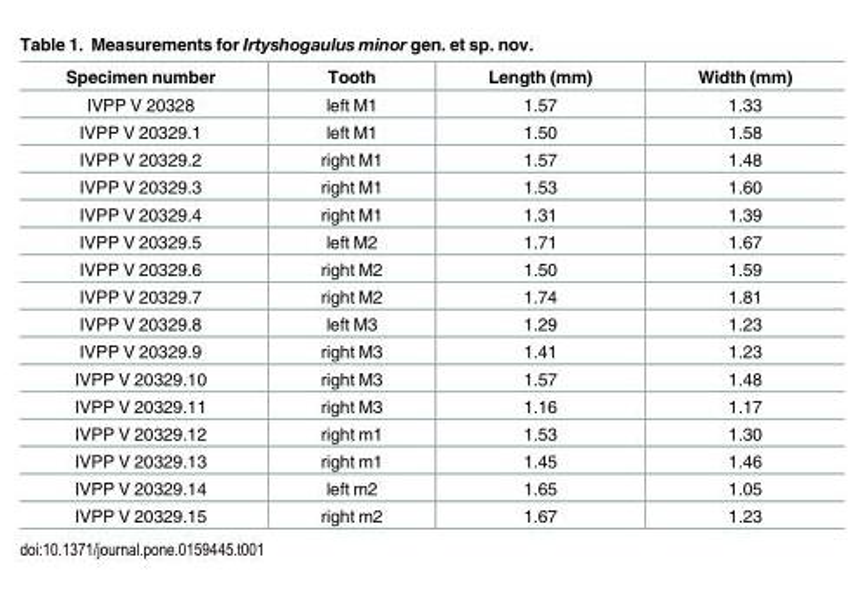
<table><thead><tr><td>Specimen number</td><td>Tooth</td><td>Length (mm)</td><td>Width (mm)</td></tr></thead><tbody><tr><td>IVPP V 20328</td><td>left M1</td><td>1.57</td><td>1.33</td></tr><tr><td>IVPP V 20329.1</td><td>left M1</td><td>1.50</td><td>1.58</td></tr><tr><td>IVPP V 20329.2</td><td>right M1</td><td>1.57</td><td>1.48</td></tr><tr><td>IVPP V 20329.3</td><td>right M1</td><td>1.53</td><td>1.60</td></tr><tr><td>IVPP V 20329.4</td><td>right M1</td><td>1.31</td><td>1.39</td></tr><tr><td>IVPP V 20329.5</td><td>left M2</td><td>1.71</td><td>1.67</td></tr><tr><td>IVPP V 20329.6</td><td>right M2</td><td>1.50</td><td>1.59</td></tr><tr><td>IVPP V 20329.7</td><td>right M2</td><td>1.74</td><td>1.81</td></tr><tr><td>IVPP V 20329.8</td><td>left M3</td><td>1.29</td><td>1.23</td></tr><tr><td>IVPP V 20329.9</td><td>right M3</td><td>1.41</td><td>1.23</td></tr><tr><td>IVPP V 20329.10</td><td>right M3</td><td>1.57</td><td>1.48</td></tr><tr><td>IVPP V 20329.11</td><td>right M3</td><td>1.16</td><td>1.17</td></tr><tr><td>IVPP V 20329.12</td><td>right m1</td><td>1.53</td><td>1.30</td></tr><tr><td>IVPP V 20329.13</td><td>right m1</td><td>1.45</td><td>1.46</td></tr><tr><td>IVPP V 20329.14</td><td>left m2</td><td>1.65</td><td>1.05</td></tr><tr><td>IVPP V 20329.15</td><td>right m2</td><td>1.67</td><td>1.23</td></tr></tbody></table>